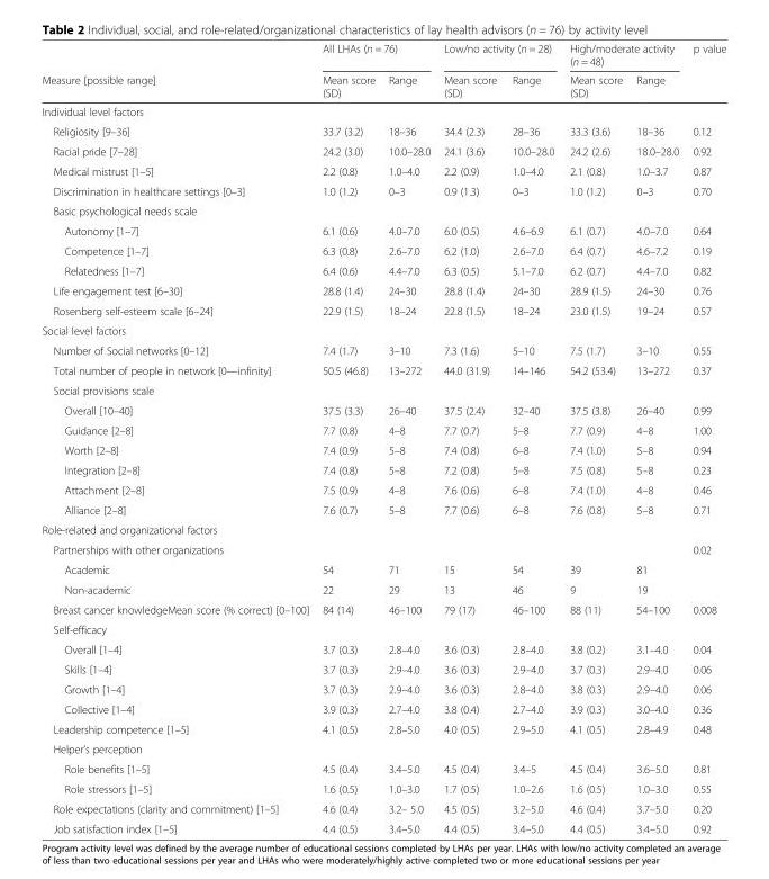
<table><thead><tr><td rowspan="2">Measure [possible range]</td><td colspan="2">All LHAs (n = 76)</td><td colspan="2">Low/no activity (n = 28)</td><td colspan="2">High/moderate activity (n = 48)</td><td rowspan="2">p value</td></tr><tr><td>Mean score (SD)</td><td>Range</td><td>Mean score (SD)</td><td>Range</td><td>Mean score (SD)</td><td>Range</td></tr></thead><tbody><tr><td colspan="8">Individual level factors</td></tr><tr><td>Religiosity [9–36]</td><td>33.7 (3.2)</td><td>18–36</td><td>34.4 (2.3)</td><td>28–36</td><td>33.3 (3.6)</td><td>18–36</td><td>0.12</td></tr><tr><td>Racial pride [7–28]</td><td>24.2 (3.0)</td><td>10.0–28.0</td><td>24.1 (3.6)</td><td>10.0–28.0</td><td>24.2 (2.6)</td><td>18.0–28.0</td><td>0.92</td></tr><tr><td>Medical mistrust [1–5]</td><td>2.2 (0.8)</td><td>1.0–4.0</td><td>2.2 (0.9)</td><td>1.0–4.0</td><td>2.1 (0.8)</td><td>1.0–3.7</td><td>0.87</td></tr><tr><td>Discrimination in healthcare settings [0–3]</td><td>1.0 (1.2)</td><td>0–3</td><td>0.9 (1.3)</td><td>0–3</td><td>1.0 (1.2)</td><td>0–3</td><td>0.70</td></tr><tr><td colspan="8">Basic psychological needs scale</td></tr><tr><td>Autonomy [1–7]</td><td>6.1 (0.6)</td><td>4.0–7.0</td><td>6.0 (0.5)</td><td>4.6–6.9</td><td>6.1 (0.7)</td><td>4.0–7.0</td><td>0.64</td></tr><tr><td>Competence [1–7]</td><td>6.3 (0.8)</td><td>2.6–7.0</td><td>6.2 (1.0)</td><td>2.6–7.0</td><td>6.4 (0.7)</td><td>4.6–7.2</td><td>0.19</td></tr><tr><td>Relatedness [1–7]</td><td>6.4 (0.6)</td><td>4.4–7.0</td><td>6.3 (0.5)</td><td>5.1–7.0</td><td>6.2 (0.7)</td><td>4.4–7.0</td><td>0.82</td></tr><tr><td>Life engagement test [6–30]</td><td>28.8 (1.4)</td><td>24–30</td><td>28.8 (1.4)</td><td>24–30</td><td>28.9 (1.5)</td><td>24–30</td><td>0.76</td></tr><tr><td>Rosenberg self-esteem scale [6–24]</td><td>22.9 (1.5)</td><td>18–24</td><td>22.8 (1.5)</td><td>18–24</td><td>23.0 (1.5)</td><td>19–24</td><td>0.57</td></tr><tr><td colspan="8">Social level factors</td></tr><tr><td>Number of Social networks [0–12]</td><td>7.4 (1.7)</td><td>3–10</td><td>7.3 (1.6)</td><td>5–10</td><td>7.5 (1.7)</td><td>3–10</td><td>0.55</td></tr><tr><td>Total number of people in network [0—infinity]</td><td>50.5 (46.8)</td><td>13–272</td><td>44.0 (31.9)</td><td>14–146</td><td>54.2 (53.4)</td><td>13–272</td><td>0.37</td></tr><tr><td colspan="8">Social provisions scale</td></tr><tr><td>Overall [10–40]</td><td>37.5 (3.3)</td><td>26–40</td><td>37.5 (2.4)</td><td>32–40</td><td>37.5 (3.8)</td><td>26–40</td><td>0.99</td></tr><tr><td>Guidance [2–8]</td><td>7.7 (0.8)</td><td>4–8</td><td>7.7 (0.7)</td><td>5–8</td><td>7.7 (0.9)</td><td>4–8</td><td>1.00</td></tr><tr><td>Worth [2–8]</td><td>7.4 (0.9)</td><td>5–8</td><td>7.4 (0.8)</td><td>6–8</td><td>7.4 (1.0)</td><td>5–8</td><td>0.94</td></tr><tr><td>Integration [2–8]</td><td>7.4 (0.8)</td><td>5–8</td><td>7.2 (0.8)</td><td>5–8</td><td>7.5 (0.8)</td><td>5–8</td><td>0.23</td></tr><tr><td>Attachment [2–8]</td><td>7.5 (0.9)</td><td>4–8</td><td>7.6 (0.6)</td><td>6–8</td><td>7.4 (1.0)</td><td>4–8</td><td>0.46</td></tr><tr><td>Alliance [2–8]</td><td>7.6 (0.7)</td><td>5–8</td><td>7.7 (0.6)</td><td>6–8</td><td>7.6 (0.8)</td><td>5–8</td><td>0.71</td></tr><tr><td colspan="8">Role-related and organizational factors</td></tr><tr><td>Partnerships with other organizations</td><td></td><td></td><td></td><td></td><td></td><td></td><td>0.02</td></tr><tr><td>Academic</td><td>54</td><td>71</td><td>15</td><td>54</td><td>39</td><td>81</td><td></td></tr><tr><td>Non-academic</td><td>22</td><td>29</td><td>13</td><td>46</td><td>9</td><td>19</td><td></td></tr><tr><td>Breast cancer knowledgeMean score (% correct) [0–100]</td><td>84 (14)</td><td>46–100</td><td>79 (17)</td><td>46–100</td><td>88 (11)</td><td>54–100</td><td>0.008</td></tr><tr><td colspan="8">Self-efficacy</td></tr><tr><td>Overall [1–4]</td><td>3.7 (0.3)</td><td>2.8–4.0</td><td>3.6 (0.3)</td><td>2.8–4.0</td><td>3.8 (0.2)</td><td>3.1–4.0</td><td>0.04</td></tr><tr><td>Skills [1–4]</td><td>3.7 (0.3)</td><td>2.9–4.0</td><td>3.6 (0.3)</td><td>2.9–4.0</td><td>3.7 (0.3)</td><td>2.9–4.0</td><td>0.06</td></tr><tr><td>Growth [1–4]</td><td>3.7 (0.3)</td><td>2.9–4.0</td><td>3.6 (0.3)</td><td>2.8–4.0</td><td>3.8 (0.3)</td><td>2.9–4.0</td><td>0.06</td></tr><tr><td>Collective [1–4]</td><td>3.9 (0.3)</td><td>2.7–4.0</td><td>3.8 (0.4)</td><td>2.7–4.0</td><td>3.9 (0.3)</td><td>3.0–4.0</td><td>0.36</td></tr><tr><td>Leadership competence [1–5]</td><td>4.1 (0.5)</td><td>2.8–5.0</td><td>4.0 (0.5)</td><td>2.9–5.0</td><td>4.1 (0.5)</td><td>2.8–4.9</td><td>0.48</td></tr><tr><td colspan="8">Helper’s perception</td></tr><tr><td>Role benefits [1–5]</td><td>4.5 (0.4)</td><td>3.4–5.0</td><td>4.5 (0.4)</td><td>3.4–5</td><td>4.5 (0.4)</td><td>3.6–5.0</td><td>0.81</td></tr><tr><td>Role stressors [1–5]</td><td>1.6 (0.5)</td><td>1.0–3.0</td><td>1.7 (0.5)</td><td>1.0–2.6</td><td>1.6 (0.5)</td><td>1.0–3.0</td><td>0.55</td></tr><tr><td>Role expectations (clarity and commitment) [1–5]</td><td>4.6 (0.4)</td><td>3.2– 5.0</td><td>4.5 (0.5)</td><td>3.2–5.0</td><td>4.6 (0.4)</td><td>3.7–5.0</td><td>0.20</td></tr><tr><td>Job satisfaction index [1–5]</td><td>4.4 (0.5)</td><td>3.4–5.0</td><td>4.4 (0.5)</td><td>3.4–5.0</td><td>4.4 (0.5)</td><td>3.4–5.0</td><td>0.92</td></tr></tbody></table>